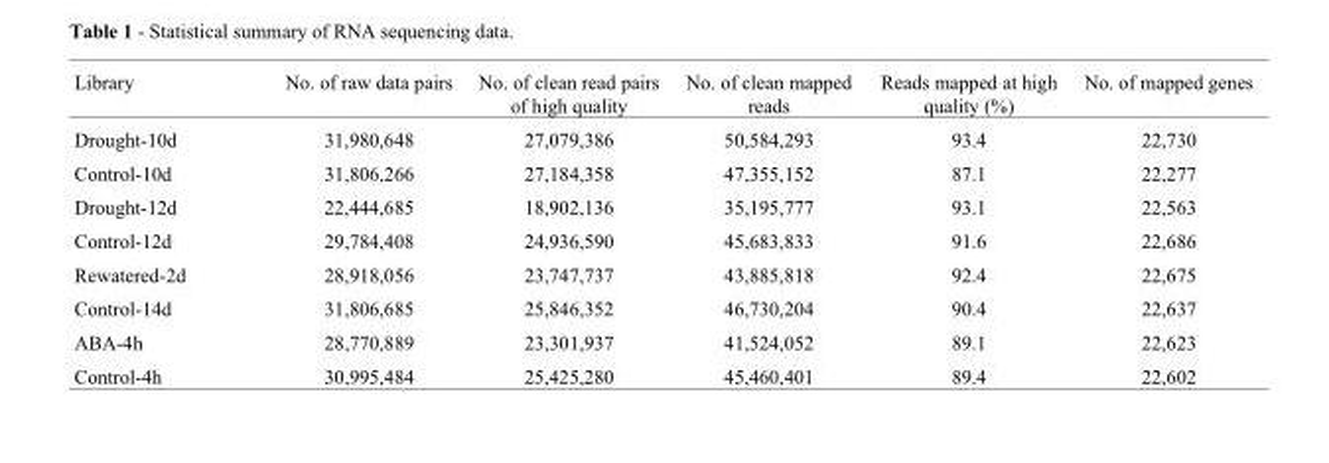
<table><thead><tr><td>Library</td><td>No. of raw data pairs</td><td>No. of clean read pairs of high quality</td><td>No. of clean mapped reads</td><td>Reads mapped at high quality (%)</td><td>No. of mapped genes</td></tr></thead><tbody><tr><td>Drought-10d</td><td>31,980,648</td><td>27,079,386</td><td>50,584,293</td><td>93.4</td><td>22,730</td></tr><tr><td>Control-10d</td><td>31,806,266</td><td>27,184,358</td><td>47,355,152</td><td>87.1</td><td>22,277</td></tr><tr><td>Drought-12d</td><td>22,444,685</td><td>18,902,136</td><td>35,195,777</td><td>93.1</td><td>22,563</td></tr><tr><td>Control-12d</td><td>29,784,408</td><td>24,936,590</td><td>45,683,833</td><td>91.6</td><td>22,686</td></tr><tr><td>Rewatered-2d</td><td>28,918,056</td><td>23,747,737</td><td>43,885,818</td><td>92.4</td><td>22,675</td></tr><tr><td>Control-14d</td><td>31,806,685</td><td>25,846,352</td><td>46,730,204</td><td>90.4</td><td>22,637</td></tr><tr><td>ABA-4h</td><td>28,770,889</td><td>23,301,937</td><td>41,524,052</td><td>89.1</td><td>22,623</td></tr><tr><td>Control-4h</td><td>30,995,484</td><td>25,425,280</td><td>45,460,401</td><td>89.4</td><td>22,602</td></tr></tbody></table>